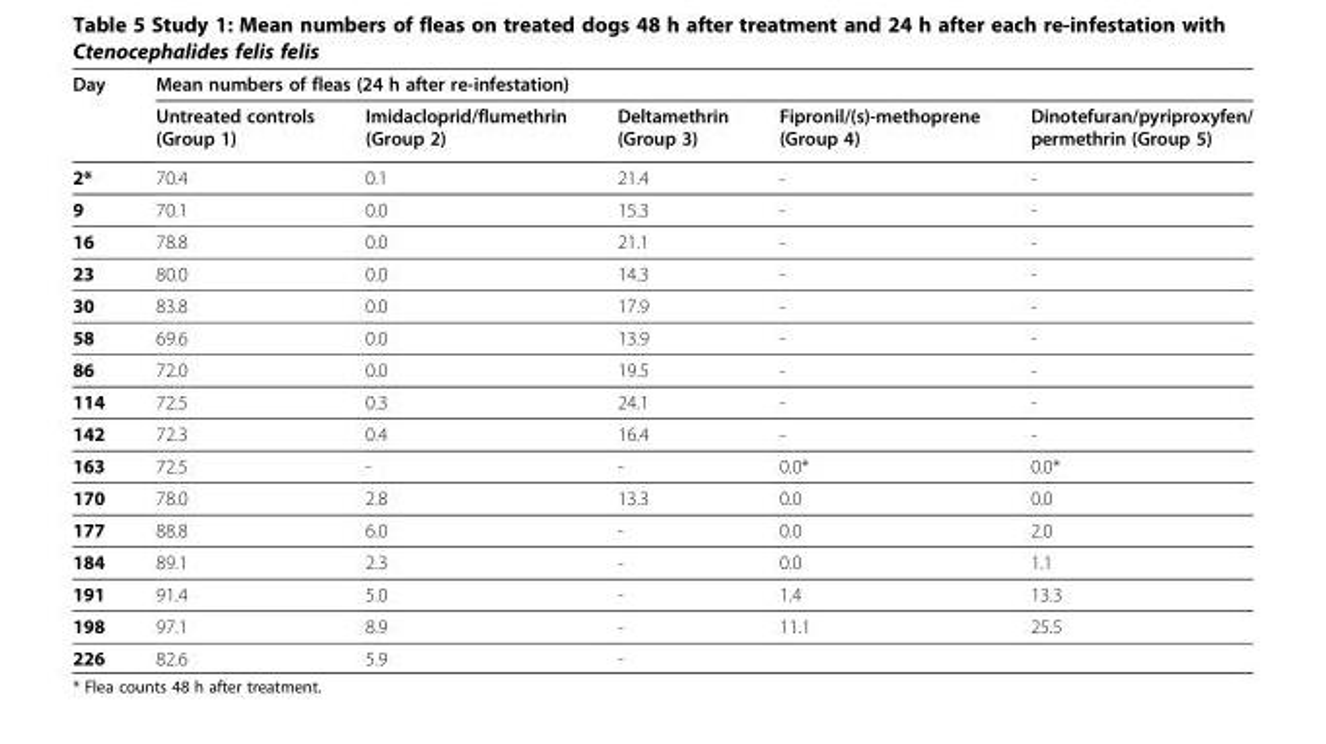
<table><thead><tr><td rowspan="2">Day</td><td colspan="5">Mean numbers of fleas (24 h after re-infestation)</td></tr><tr><td>Untreated controls (Group 1)</td><td>Imidacloprid/flumethrin (Group 2)</td><td>Deltamethrin (Group 3)</td><td>Fipronil/(s)-methoprene (Group 4)</td><td>Dinotefuran/pyriproxyfen/ permethrin (Group 5)</td></tr></thead><tbody><tr><td>2*</td><td>70.4</td><td>0.1</td><td>21.4</td><td>-</td><td>-</td></tr><tr><td>9</td><td>70.1</td><td>0.0</td><td>15.3</td><td>-</td><td>-</td></tr><tr><td>16</td><td>78.8</td><td>0.0</td><td>21.1</td><td>-</td><td>-</td></tr><tr><td>23</td><td>80.0</td><td>0.0</td><td>14.3</td><td>-</td><td>-</td></tr><tr><td>30</td><td>83.8</td><td>0.0</td><td>17.9</td><td>-</td><td>-</td></tr><tr><td>58</td><td>69.6</td><td>0.0</td><td>13.9</td><td>-</td><td>-</td></tr><tr><td>86</td><td>72.0</td><td>0.0</td><td>19.5</td><td>-</td><td>-</td></tr><tr><td>114</td><td>72.5</td><td>0.3</td><td>24.1</td><td>-</td><td>-</td></tr><tr><td>142</td><td>72.3</td><td>0.4</td><td>16.4</td><td>-</td><td>-</td></tr><tr><td>163</td><td>72.5</td><td>-</td><td>-</td><td>0.0*</td><td>0.0*</td></tr><tr><td>170</td><td>78.0</td><td>2.8</td><td>13.3</td><td>0.0</td><td>0.0</td></tr><tr><td>177</td><td>88.8</td><td>6.0</td><td>-</td><td>0.0</td><td>2.0</td></tr><tr><td>184</td><td>89.1</td><td>2.3</td><td>-</td><td>0.0</td><td>1.1</td></tr><tr><td>191</td><td>91.4</td><td>5.0</td><td>-</td><td>1.4</td><td>13.3</td></tr><tr><td>198</td><td>97.1</td><td>8.9</td><td>-</td><td>11.1</td><td>25.5</td></tr><tr><td>226</td><td>82.6</td><td>5.9</td><td>-</td><td></td><td></td></tr></tbody></table>